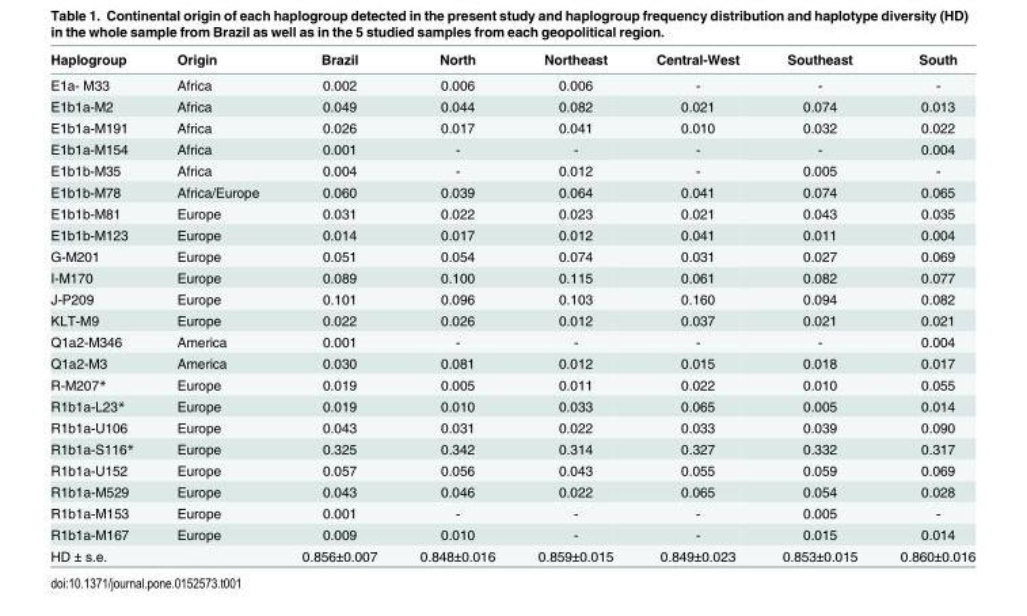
<table><thead><tr><td>Haplogroup</td><td>Origin</td><td>Brazil</td><td>North</td><td>Northeast</td><td>Central-West</td><td>Southeast</td><td>South</td></tr></thead><tbody><tr><td>E1a- M33</td><td>Africa</td><td>0.002</td><td>0.006</td><td>0.006</td><td>-</td><td>-</td><td>-</td></tr><tr><td>E1b1a-M2</td><td>Africa</td><td>0.049</td><td>0.044</td><td>0.082</td><td>0.021</td><td>0.074</td><td>0.013</td></tr><tr><td>E1b1a-M191</td><td>Africa</td><td>0.026</td><td>0.017</td><td>0.041</td><td>0.010</td><td>0.032</td><td>0.022</td></tr><tr><td>E1b1a-M154</td><td>Africa</td><td>0.001</td><td>-</td><td>-</td><td>-</td><td>-</td><td>0.004</td></tr><tr><td>E1b1b-M35</td><td>Africa</td><td>0.004</td><td>-</td><td>0.012</td><td>-</td><td>0.005</td><td>-</td></tr><tr><td>E1b1b-M78</td><td>Africa/Europe</td><td>0.060</td><td>0.039</td><td>0.064</td><td>0.041</td><td>0.074</td><td>0.065</td></tr><tr><td>E1b1b-M81</td><td>Europe</td><td>0.031</td><td>0.022</td><td>0.023</td><td>0.021</td><td>0.043</td><td>0.035</td></tr><tr><td>E1b1b-M123</td><td>Europe</td><td>0.014</td><td>0.017</td><td>0.012</td><td>0.041</td><td>0.011</td><td>0.004</td></tr><tr><td>G-M201</td><td>Europe</td><td>0.051</td><td>0.054</td><td>0.074</td><td>0.031</td><td>0.027</td><td>0.069</td></tr><tr><td>I-M170</td><td>Europe</td><td>0.089</td><td>0.100</td><td>0.115</td><td>0.061</td><td>0.082</td><td>0.077</td></tr><tr><td>J-P209</td><td>Europe</td><td>0.101</td><td>0.096</td><td>0.103</td><td>0.160</td><td>0.094</td><td>0.082</td></tr><tr><td>KLT-M9</td><td>Europe</td><td>0.022</td><td>0.026</td><td>0.012</td><td>0.037</td><td>0.021</td><td>0.021</td></tr><tr><td>Q1a2-M346</td><td>America</td><td>0.001</td><td>-</td><td>-</td><td>-</td><td>-</td><td>0.004</td></tr><tr><td>Q1a2-M3</td><td>America</td><td>0.030</td><td>0.081</td><td>0.012</td><td>0.015</td><td>0.018</td><td>0.017</td></tr><tr><td>R-M207*</td><td>Europe</td><td>0.019</td><td>0.005</td><td>0.011</td><td>0.022</td><td>0.010</td><td>0.055</td></tr><tr><td>R1b1a-L23*</td><td>Europe</td><td>0.019</td><td>0.010</td><td>0.033</td><td>0.065</td><td>0.005</td><td>0.014</td></tr><tr><td>R1b1a-U106</td><td>Europe</td><td>0.043</td><td>0.031</td><td>0.022</td><td>0.033</td><td>0.039</td><td>0.090</td></tr><tr><td>R1b1a-S116*</td><td>Europe</td><td>0.325</td><td>0.342</td><td>0.314</td><td>0.327</td><td>0.332</td><td>0.317</td></tr><tr><td>R1b1a-U152</td><td>Europe</td><td>0.057</td><td>0.056</td><td>0.043</td><td>0.055</td><td>0.059</td><td>0.069</td></tr><tr><td>R1b1a-M529</td><td>Europe</td><td>0.043</td><td>0.046</td><td>0.022</td><td>0.065</td><td>0.054</td><td>0.028</td></tr><tr><td>R1b1a-M153</td><td>Europe</td><td>0.001</td><td>-</td><td>-</td><td>-</td><td>0.005</td><td>-</td></tr><tr><td>R1b1a-M167</td><td>Europe</td><td>0.009</td><td>0.010</td><td>-</td><td>-</td><td>0.015</td><td>0.014</td></tr><tr><td>HD ± s.e.</td><td></td><td>0.856±0.007</td><td>0.848±0.016</td><td>0.859±0.015</td><td>0.849±0.023</td><td>0.853±0.015</td><td>0.860±0.016</td></tr></tbody></table>